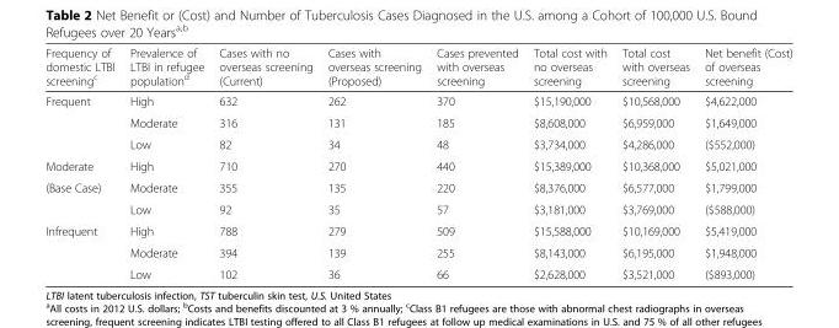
<table><thead><tr><td>Frequency of domestic LTBI screening<sup>c</sup></td><td>Prevalence of LTBI in refugee population<sup>d</sup></td><td>Cases with no overseas screening (Current)</td><td>Cases with overseas screening (Proposed)</td><td>Cases prevented with overseas screening</td><td>Total cost with no overseas screening</td><td>Total cost with overseas screening</td><td>Net benefit (Cost) of overseas screening</td></tr></thead><tbody><tr><td rowspan="3">Frequent</td><td>High</td><td>632</td><td>262</td><td>370</td><td>$15,190,000</td><td>$10,568,000</td><td>$4,622,000</td></tr><tr><td>Moderate</td><td>316</td><td>131</td><td>185</td><td>$8,608,000</td><td>$6,959,000</td><td>$1,649,000</td></tr><tr><td>Low</td><td>82</td><td>34</td><td>48</td><td>$3,734,000</td><td>$4,286,000</td><td>($552,000)</td></tr><tr><td>Moderate</td><td>High</td><td>710</td><td>270</td><td>440</td><td>$15,389,000</td><td>$10,368,000</td><td>$5,021,000</td></tr><tr><td rowspan="2">(Base Case)</td><td>Moderate</td><td>355</td><td>135</td><td>220</td><td>$8,376,000</td><td>$6,577,000</td><td>$1,799,000</td></tr><tr><td>Low</td><td>92</td><td>35</td><td>57</td><td>$3,181,000</td><td>$3,769,000</td><td>($588,000)</td></tr><tr><td rowspan="3">Infrequent</td><td>High</td><td>788</td><td>279</td><td>509</td><td>$15,588,000</td><td>$10,169,000</td><td>$5,419,000</td></tr><tr><td>Moderate</td><td>394</td><td>139</td><td>255</td><td>$8,143,000</td><td>$6,195,000</td><td>$1,948,000</td></tr><tr><td>Low</td><td>102</td><td>36</td><td>66</td><td>$2,628,000</td><td>$3,521,000</td><td>($893,000)</td></tr></tbody></table>